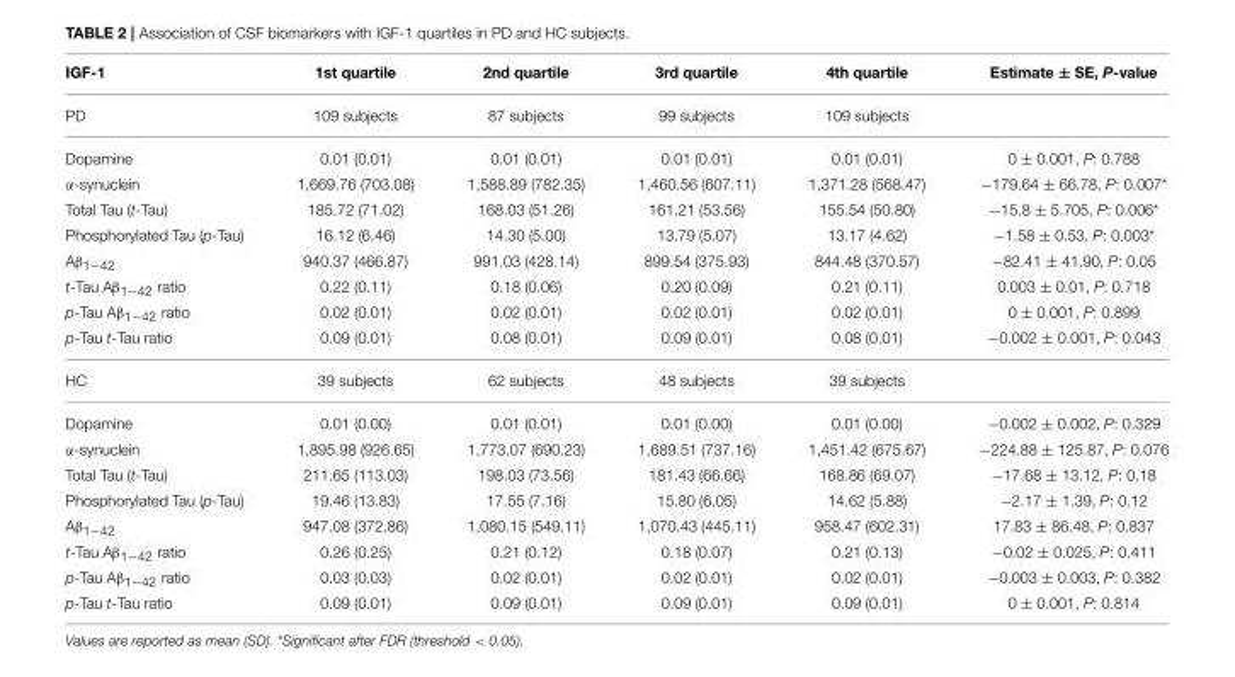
<table><thead><tr><td>IGF-1</td><td>1st quartile</td><td>2nd quartile</td><td>3rd quartile</td><td>4th quartile</td><td>Estimate ± SE, P-value</td></tr></thead><tbody><tr><td>PD</td><td>109 subjects</td><td>87 subjects</td><td>99 subjects</td><td>109 subjects</td><td></td></tr><tr><td>Dopamine</td><td>0.01 (0.01)</td><td>0.01 (0.01)</td><td>0.01 (0.01)</td><td>0.01 (0.01)</td><td>0 ± 0.001, P: 0.788</td></tr><tr><td>α-synuclein</td><td>1,669.76 (703.08)</td><td>1,588.89 (782.35)</td><td>1,460.56 (607.11)</td><td>1,371.28 (568.47)</td><td>−179.64 ± 66.78, P: 0.007*</td></tr><tr><td>Total Tau (t-Tau)</td><td>185.72 (71.02)</td><td>168.03 (51.26)</td><td>161.21 (53.56)</td><td>155.54 (50.80)</td><td>−15.8 ± 5.705, P: 0.006*</td></tr><tr><td>Phosphorylated Tau (p-Tau)</td><td>16.12 (6.46)</td><td>14.30 (5.00)</td><td>13.79 (5.07)</td><td>13.17 (4.62)</td><td>−1.58 ± 0.53, P: 0.003*</td></tr><tr><td>Aβ<sub>1−42</sub></td><td>940.37 (466.87)</td><td>991.03 (428.14)</td><td>899.54 (375.93)</td><td>844.48 (370.57)</td><td>−82.41 ± 41.90, P: 0.05</td></tr><tr><td>t-Tau Aβ<sub>1−42</sub> ratio</td><td>0.22 (0.11)</td><td>0.18 (0.06)</td><td>0.20 (0.09)</td><td>0.21 (0.11)</td><td>0.003 ± 0.01, P: 0.718</td></tr><tr><td>p-Tau Aβ<sub>1−42</sub> ratio</td><td>0.02 (0.01)</td><td>0.02 (0.01)</td><td>0.02 (0.01)</td><td>0.02 (0.01)</td><td>0 ± 0.001, P: 0.899</td></tr><tr><td>p-Tau t-Tau ratio</td><td>0.09 (0.01)</td><td>0.08 (0.01)</td><td>0.09 (0.01)</td><td>0.08 (0.01)</td><td>−0.002 ± 0.001, P: 0.043</td></tr><tr><td>HC</td><td>39 subjects</td><td>62 subjects</td><td>48 subjects</td><td>39 subjects</td><td></td></tr><tr><td>Dopamine</td><td>0.01 (0.00)</td><td>0.01 (0.01)</td><td>0.01 (0.00)</td><td>0.01 (0.00)</td><td>−0.002 ± 0.002, P: 0.329</td></tr><tr><td>α-synuclein</td><td>1,895.98 (926.65)</td><td>1,773.07 (690.23)</td><td>1,689.51 (737.16)</td><td>1,451.42 (675.67)</td><td>−224.88 ± 125.87, P: 0.076</td></tr><tr><td>Total Tau (t-Tau)</td><td>211.65 (113.03)</td><td>198.03 (73.56)</td><td>181.43 (66.66)</td><td>168.86 (69.07)</td><td>−17.68 ± 13.12, P: 0.18</td></tr><tr><td>Phosphorylated Tau (p-Tau)</td><td>19.46 (13.83)</td><td>17.55 (7.16)</td><td>15.80 (6.05)</td><td>14.62 (5.88)</td><td>−2.17 ± 1.39, P: 0.12</td></tr><tr><td>Aβ<sub>1−42</sub></td><td>947.08 (372.86)</td><td>1,080.15 (549.11)</td><td>1,070.43 (445.11)</td><td>958.47 (602.31)</td><td>17.83 ± 86.48, P: 0.837</td></tr><tr><td>t-Tau Aβ<sub>1−42</sub> ratio</td><td>0.26 (0.25)</td><td>0.21 (0.12)</td><td>0.18 (0.07)</td><td>0.21 (0.13)</td><td>−0.02 ± 0.025, P: 0.411</td></tr><tr><td>p-Tau Aβ<sub>1−42</sub> ratio</td><td>0.03 (0.03)</td><td>0.02 (0.01)</td><td>0.02 (0.01)</td><td>0.02 (0.01)</td><td>−0.003 ± 0.003, P: 0.382</td></tr><tr><td>p-Tau t-Tau ratio</td><td>0.09 (0.01)</td><td>0.09 (0.01)</td><td>0.09 (0.01)</td><td>0.09 (0.01)</td><td>0 ± 0.001, P: 0.814</td></tr></tbody></table>